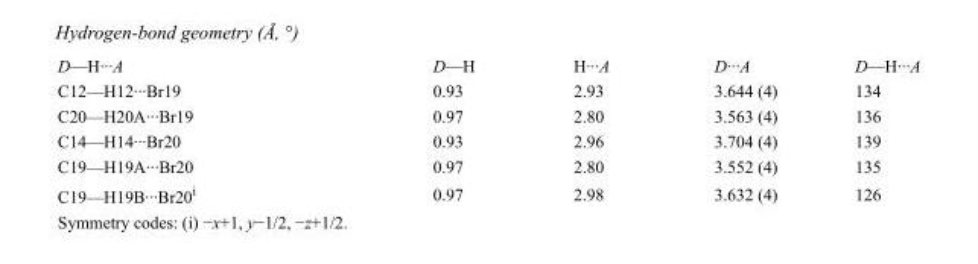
<table><tbody><tr><td>D—H···A</td><td>D—H</td><td>H···A</td><td>D···A</td><td>D—H···A</td></tr><tr><td>C12—H12···Br19</td><td>0.93</td><td>2.93</td><td>3.644 (4)</td><td>134</td></tr><tr><td>C20—H20A···Br19</td><td>0.97</td><td>2.80</td><td>3.563 (4)</td><td>136</td></tr><tr><td>C14—H14···Br20</td><td>0.93</td><td>2.96</td><td>3.704 (4)</td><td>139</td></tr><tr><td>C19—H19A···Br20</td><td>0.97</td><td>2.80</td><td>3.552 (4)</td><td>135</td></tr><tr><td>C19—H19B···Br20<sup>i</sup></td><td>0.97</td><td>2.98</td><td>3.632 (4)</td><td>126</td></tr></tbody></table>